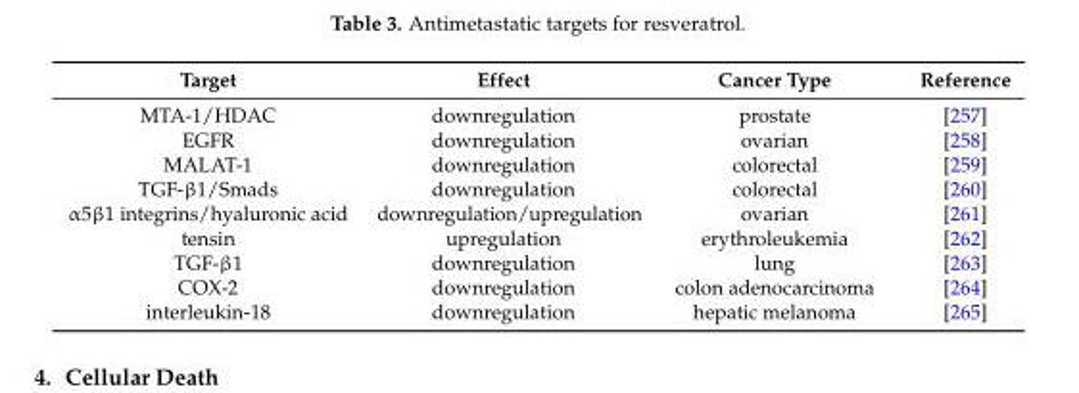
<table><thead><tr><td>Target</td><td>Effect</td><td>Cancer Type</td><td>Reference</td></tr></thead><tbody><tr><td>MTA-1/HDAC</td><td>downregulation</td><td>prostate</td><td>[257]</td></tr><tr><td>EGFR</td><td>downregulation</td><td>ovarian</td><td>[258]</td></tr><tr><td>MALAT-1</td><td>downregulation</td><td>colorectal</td><td>[259]</td></tr><tr><td>TGF-β1/Smads</td><td>downregulation</td><td>colorectal</td><td>[260]</td></tr><tr><td>α5β1 integrins/hyaluronic acid</td><td>downregulation/upregulation</td><td>ovarian</td><td>[261]</td></tr><tr><td>tensin</td><td>upregulation</td><td>erythroleukemia</td><td>[262]</td></tr><tr><td>TGF-β1</td><td>downregulation</td><td>lung</td><td>[263]</td></tr><tr><td>COX-2</td><td>downregulation</td><td>colon adenocarcinoma</td><td>[264]</td></tr><tr><td>interleukin-18</td><td>downregulation</td><td>hepatic melanoma</td><td>[265]</td></tr></tbody></table>